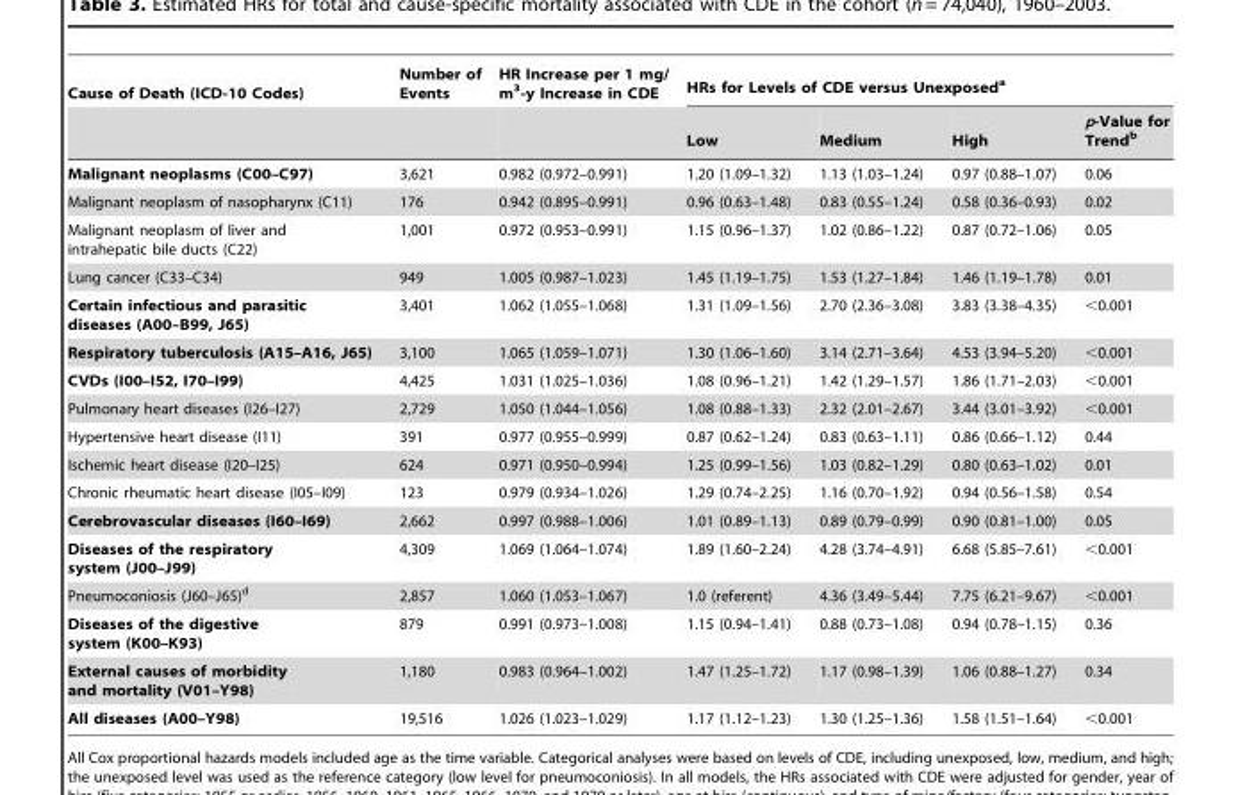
<table><thead><tr><td rowspan="2">Cause of Death (ICD-10 Codes)</td><td rowspan="2">Number of Events</td><td rowspan="2">HR Increase per 1 mg/ m<sup>3</sup>-y Increase in CDE</td><td colspan="4">HRs for Levels of CDE versus Unexposed<sup>a</sup></td></tr><tr><td>Low</td><td>Medium</td><td>High</td><td>p-Value for Trend<sup>b</sup></td></tr></thead><tbody><tr><td>Malignant neoplasms (C00–C97)</td><td>3,621</td><td>0.982 (0.972–0.991)</td><td>1.20 (1.09–1.32)</td><td>1.13 (1.03–1.24)</td><td>0.97 (0.88–1.07)</td><td>0.06</td></tr><tr><td>Malignant neoplasm of nasopharynx (C11)</td><td>176</td><td>0.942 (0.895–0.991)</td><td>0.96 (0.63–1.48)</td><td>0.83 (0.55–1.24)</td><td>0.58 (0.36–0.93)</td><td>0.02</td></tr><tr><td>Malignant neoplasm of liver and intrahepatic bile ducts (C22)</td><td>1,001</td><td>0.972 (0.953–0.991)</td><td>1.15 (0.96–1.37)</td><td>1.02 (0.86–1.22)</td><td>0.87 (0.72–1.06)</td><td>0.05</td></tr><tr><td>Lung cancer (C33–C34)</td><td>949</td><td>1.005 (0.987–1.023)</td><td>1.45 (1.19–1.75)</td><td>1.53 (1.27–1.84)</td><td>1.46 (1.19–1.78)</td><td>0.01</td></tr><tr><td>Certain infectious and parasitic diseases (A00–B99, J65)</td><td>3,401</td><td>1.062 (1.055–1.068)</td><td>1.31 (1.09–1.56)</td><td>2.70 (2.36–3.08)</td><td>3.83 (3.38–4.35)</td><td>&lt;0.001</td></tr><tr><td>Respiratory tuberculosis (A15–A16, J65)</td><td>3,100</td><td>1.065 (1.059–1.071)</td><td>1.30 (1.06–1.60)</td><td>3.14 (2.71–3.64)</td><td>4.53 (3.94–5.20)</td><td>&lt;0.001</td></tr><tr><td>CVDs (I00–I52, I70–I99)</td><td>4,425</td><td>1.031 (1.025–1.036)</td><td>1.08 (0.96–1.21)</td><td>1.42 (1.29–1.57)</td><td>1.86 (1.71–2.03)</td><td>&lt;0.001</td></tr><tr><td>Pulmonary heart diseases (I26–I27)</td><td>2,729</td><td>1.050 (1.044–1.056)</td><td>1.08 (0.88–1.33)</td><td>2.32 (2.01–2.67)</td><td>3.44 (3.01–3.92)</td><td>&lt;0.001</td></tr><tr><td>Hypertensive heart disease (I11)</td><td>391</td><td>0.977 (0.955–0.999)</td><td>0.87 (0.62–1.24)</td><td>0.83 (0.63–1.11)</td><td>0.86 (0.66–1.12)</td><td>0.44</td></tr><tr><td>Ischemic heart disease (I20–I25)</td><td>624</td><td>0.971 (0.950–0.994)</td><td>1.25 (0.99–1.56)</td><td>1.03 (0.82–1.29)</td><td>0.80 (0.63–1.02)</td><td>0.01</td></tr><tr><td>Chronic rheumatic heart disease (I05–I09)</td><td>123</td><td>0.979 (0.934–1.026)</td><td>1.29 (0.74–2.25)</td><td>1.16 (0.70–1.92)</td><td>0.94 (0.56–1.58)</td><td>0.54</td></tr><tr><td>Cerebrovascular diseases (I60–I69)</td><td>2,662</td><td>0.997 (0.988–1.006)</td><td>1.01 (0.89–1.13)</td><td>0.89 (0.79–0.99)</td><td>0.90 (0.81–1.00)</td><td>0.05</td></tr><tr><td>Diseases of the respiratory system (J00–J99)</td><td>4,309</td><td>1.069 (1.064–1.074)</td><td>1.89 (1.60–2.24)</td><td>4.28 (3.74–4.91)</td><td>6.68 (5.85–7.61)</td><td>&lt;0.001</td></tr><tr><td>Pneumoconiosis (J60–J65)<sup>d</sup></td><td>2,857</td><td>1.060 (1.053–1.067)</td><td>1.0 (referent)</td><td>4.36 (3.49–5.44)</td><td>7.75 (6.21–9.67)</td><td>&lt;0.001</td></tr><tr><td>Diseases of the digestive system (K00–K93)</td><td>879</td><td>0.991 (0.973–1.008)</td><td>1.15 (0.94–1.41)</td><td>0.88 (0.73–1.08)</td><td>0.94 (0.78–1.15)</td><td>0.36</td></tr><tr><td>External causes of morbidity and mortality (V01–Y98)</td><td>1,180</td><td>0.983 (0.964–1.002)</td><td>1.47 (1.25–1.72)</td><td>1.17 (0.98–1.39)</td><td>1.06 (0.88–1.27)</td><td>0.34</td></tr><tr><td>All diseases (A00–Y98)</td><td>19,516</td><td>1.026 (1.023–1.029)</td><td>1.17 (1.12–1.23)</td><td>1.30 (1.25–1.36)</td><td>1.58 (1.51–1.64)</td><td>&lt;0.001</td></tr></tbody></table>